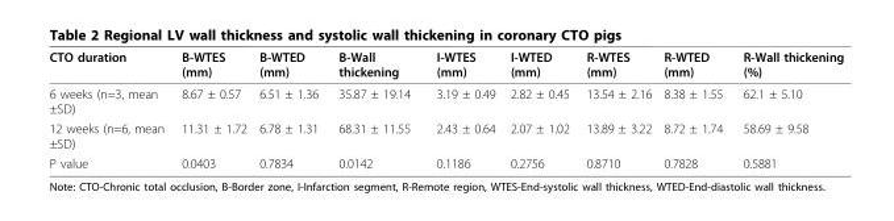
<table><thead><tr><td>CTO duration</td><td>B-WTES (mm)</td><td>B-WTED (mm)</td><td>B-Wall thickening</td><td>I-WTES (mm)</td><td>I-WTED (mm)</td><td>R-WTES (mm)</td><td>R-WTED (mm)</td><td>R-Wall thickening (%)</td></tr></thead><tbody><tr><td>6 weeks (n=3, mean ±SD)</td><td>8.67 ± 0.57</td><td>6.51 ± 1.36</td><td>35.87 ± 19.14</td><td>3.19 ± 0.49</td><td>2.82 ± 0.45</td><td>13.54 ± 2.16</td><td>8.38 ± 1.55</td><td>62.1 ± 5.10</td></tr><tr><td>12 weeks (n=6, mean ±SD)</td><td>11.31 ± 1.72</td><td>6.78 ± 1.31</td><td>68.31 ± 11.55</td><td>2.43 ± 0.64</td><td>2.07 ± 1.02</td><td>13.89 ± 3.22</td><td>8.72 ± 1.74</td><td>58.69 ± 9.58</td></tr><tr><td>P value</td><td>0.0403</td><td>0.7834</td><td>0.0142</td><td>0.1186</td><td>0.2756</td><td>0.8710</td><td>0.7828</td><td>0.5881</td></tr></tbody></table>